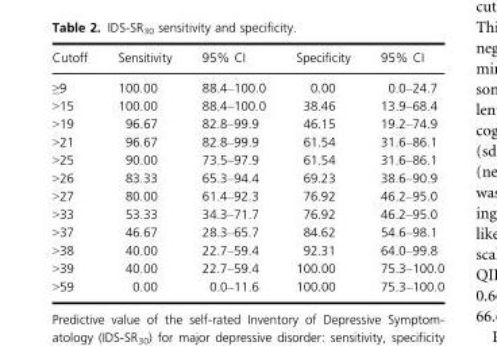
<table><thead><tr><td>Cutoff</td><td>Sensitivity</td><td>95% CI</td><td>Specificity</td><td>95% CI</td></tr></thead><tbody><tr><td>≥9</td><td>100.00</td><td>88.4–100.0</td><td>0.00</td><td>0.0–24.7</td></tr><tr><td>&gt;15</td><td>100.00</td><td>88.4–100.0</td><td>38.46</td><td>13.9–68.4</td></tr><tr><td>&gt;19</td><td>96.67</td><td>82.8–99.9</td><td>46.15</td><td>19.2–74.9</td></tr><tr><td>&gt;21</td><td>96.67</td><td>82.8–99.9</td><td>61.54</td><td>31.6–86.1</td></tr><tr><td>&gt;25</td><td>90.00</td><td>73.5–97.9</td><td>61.54</td><td>31.6–86.1</td></tr><tr><td>&gt;26</td><td>83.33</td><td>65.3–94.4</td><td>69.23</td><td>38.6–90.9</td></tr><tr><td>&gt;27</td><td>80.00</td><td>61.4–92.3</td><td>76.92</td><td>46.2–95.0</td></tr><tr><td>&gt;33</td><td>53.33</td><td>34.3–71.7</td><td>76.92</td><td>46.2–95.0</td></tr><tr><td>&gt;37</td><td>46.67</td><td>28.3–65.7</td><td>84.62</td><td>54.6–98.1</td></tr><tr><td>&gt;38</td><td>40.00</td><td>22.7–59.4</td><td>92.31</td><td>64.0–99.8</td></tr><tr><td>&gt;39</td><td>40.00</td><td>22.7–59.4</td><td>100.00</td><td>75.3–100.0</td></tr><tr><td>&gt;59</td><td>0.00</td><td>0.0–11.6</td><td>100.00</td><td>75.3–100.0</td></tr></tbody></table>